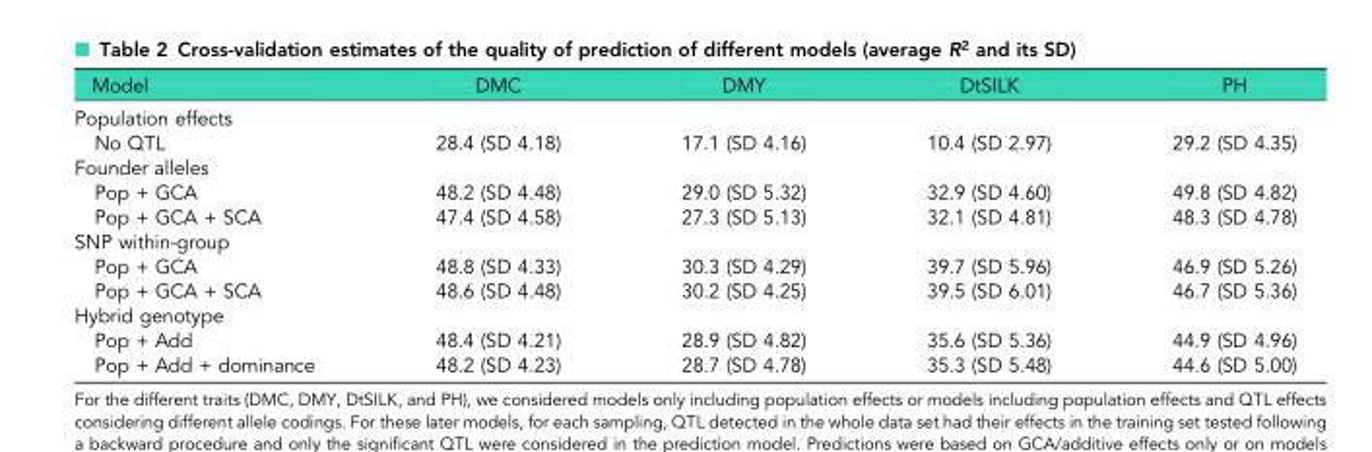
<table><thead><tr><td>Model</td><td>DMC</td><td>DMY</td><td>DtSILK</td><td>PH</td></tr></thead><tbody><tr><td colspan="5">Population effects</td></tr><tr><td>No QTL</td><td>28.4 (SD 4.18)</td><td>17.1 (SD 4.16)</td><td>10.4 (SD 2.97)</td><td>29.2 (SD 4.35)</td></tr><tr><td colspan="5">Founder alleles</td></tr><tr><td>Pop + GCA</td><td>48.2 (SD 4.48)</td><td>29.0 (SD 5.32)</td><td>32.9 (SD 4.60)</td><td>49.8 (SD 4.82)</td></tr><tr><td>Pop + GCA + SCA</td><td>47.4 (SD 4.58)</td><td>27.3 (SD 5.13)</td><td>32.1 (SD 4.81)</td><td>48.3 (SD 4.78)</td></tr><tr><td colspan="5">SNP within-group</td></tr><tr><td>Pop + GCA</td><td>48.8 (SD 4.33)</td><td>30.3 (SD 4.29)</td><td>39.7 (SD 5.96)</td><td>46.9 (SD 5.26)</td></tr><tr><td>Pop + GCA + SCA</td><td>48.6 (SD 4.48)</td><td>30.2 (SD 4.25)</td><td>39.5 (SD 6.01)</td><td>46.7 (SD 5.36)</td></tr><tr><td colspan="5">Hybrid genotype</td></tr><tr><td>Pop + Add</td><td>48.4 (SD 4.21)</td><td>28.9 (SD 4.82)</td><td>35.6 (SD 5.36)</td><td>44.9 (SD 4.96)</td></tr><tr><td>Pop + Add + dominance</td><td>48.2 (SD 4.23)</td><td>28.7 (SD 4.78)</td><td>35.3 (SD 5.48)</td><td>44.6 (SD 5.00)</td></tr></tbody></table>